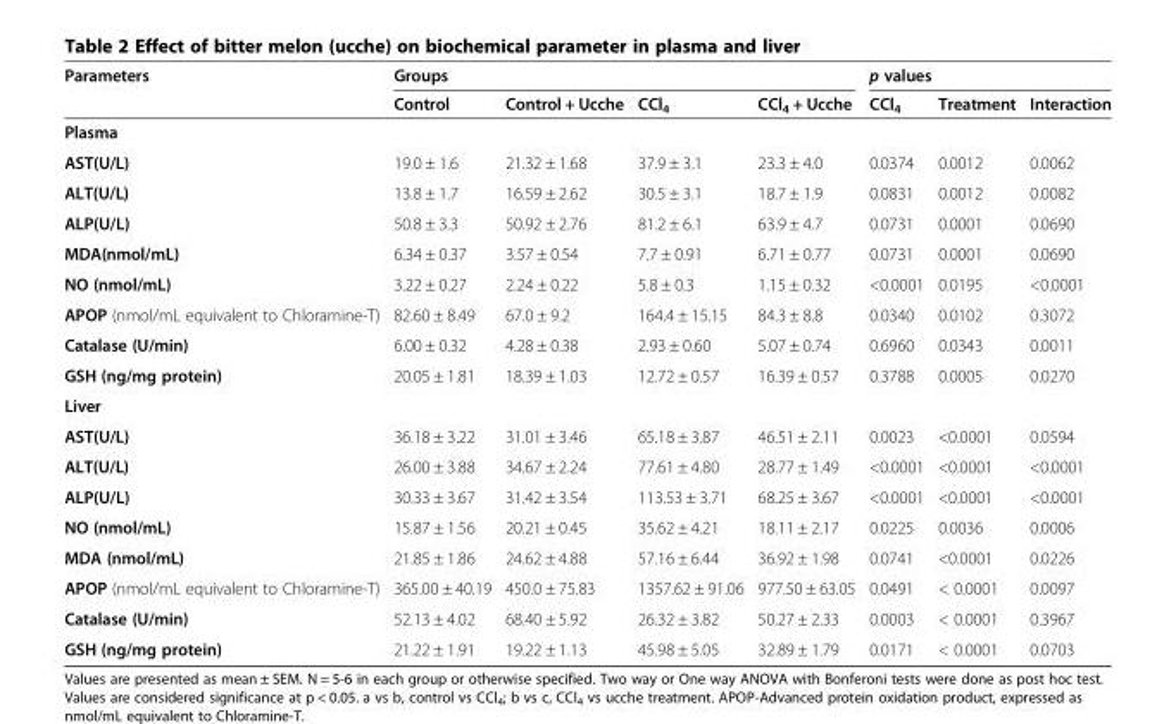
<table><thead><tr><td rowspan="2">Parameters</td><td colspan="4">Groups</td><td colspan="3">p values</td></tr><tr><td>Control</td><td>Control + Ucche</td><td>CCl<sub>4</sub></td><td>CCl<sub>4</sub> + Ucche</td><td>CCl<sub>4</sub></td><td>Treatment</td><td>Interaction</td></tr></thead><tbody><tr><td colspan="8">Plasma</td></tr><tr><td>AST(U/L)</td><td>19.0 ± 1.6</td><td>21.32 ± 1.68</td><td>37.9 ± 3.1</td><td>23.3 ± 4.0</td><td>0.0374</td><td>0.0012</td><td>0.0062</td></tr><tr><td>ALT(U/L)</td><td>13.8 ± 1.7</td><td>16.59 ± 2.62</td><td>30.5 ± 3.1</td><td>18.7 ± 1.9</td><td>0.0831</td><td>0.0012</td><td>0.0082</td></tr><tr><td>ALP(U/L)</td><td>50.8 ± 3.3</td><td>50.92 ± 2.76</td><td>81.2 ± 6.1</td><td>63.9 ± 4.7</td><td>0.0731</td><td>0.0001</td><td>0.0690</td></tr><tr><td>MDA(nmol/mL)</td><td>6.34 ± 0.37</td><td>3.57 ± 0.54</td><td>7.7 ± 0.91</td><td>6.71 ± 0.77</td><td>0.0731</td><td>0.0001</td><td>0.0690</td></tr><tr><td>NO (nmol/mL)</td><td>3.22 ± 0.27</td><td>2.24 ± 0.22</td><td>5.8 ± 0.3</td><td>1.15 ± 0.32</td><td>&lt;0.0001</td><td>0.0195</td><td>&lt;0.0001</td></tr><tr><td>APOP (nmol/mL equivalent to Chloramine-T)</td><td>82.60 ± 8.49</td><td>67.0 ± 9.2</td><td>164.4 ± 15.15</td><td>84.3 ± 8.8</td><td>0.0340</td><td>0.0102</td><td>0.3072</td></tr><tr><td>Catalase (U/min)</td><td>6.00 ± 0.32</td><td>4.28 ± 0.38</td><td>2.93 ± 0.60</td><td>5.07 ± 0.74</td><td>0.6960</td><td>0.0343</td><td>0.0011</td></tr><tr><td>GSH (ng/mg protein)</td><td>20.05 ± 1.81</td><td>18.39 ± 1.03</td><td>12.72 ± 0.57</td><td>16.39 ± 0.57</td><td>0.3788</td><td>0.0005</td><td>0.0270</td></tr><tr><td colspan="8">Liver</td></tr><tr><td>AST(U/L)</td><td>36.18 ± 3.22</td><td>31.01 ± 3.46</td><td>65.18 ± 3.87</td><td>46.51 ± 2.11</td><td>0.0023</td><td>&lt;0.0001</td><td>0.0594</td></tr><tr><td>ALT(U/L)</td><td>26.00 ± 3.88</td><td>34.67 ± 2.24</td><td>77.61 ± 4.80</td><td>28.77 ± 1.49</td><td>&lt;0.0001</td><td>&lt;0.0001</td><td>&lt;0.0001</td></tr><tr><td>ALP(U/L)</td><td>30.33 ± 3.67</td><td>31.42 ± 3.54</td><td>113.53 ± 3.71</td><td>68.25 ± 3.67</td><td>&lt;0.0001</td><td>&lt;0.0001</td><td>&lt;0.0001</td></tr><tr><td>NO (nmol/mL)</td><td>15.87 ± 1.56</td><td>20.21 ± 0.45</td><td>35.62 ± 4.21</td><td>18.11 ± 2.17</td><td>0.0225</td><td>0.0036</td><td>0.0006</td></tr><tr><td>MDA (nmol/mL)</td><td>21.85 ± 1.86</td><td>24.62 ± 4.88</td><td>57.16 ± 6.44</td><td>36.92 ± 1.98</td><td>0.0741</td><td>&lt;0.0001</td><td>0.0226</td></tr><tr><td>APOP (nmol/mL equivalent to Chloramine-T)</td><td>365.00 ± 40.19</td><td>450.0 ± 75.83</td><td>1357.62 ± 91.06</td><td>977.50 ± 63.05</td><td>0.0491</td><td>&lt; 0.0001</td><td>0.0097</td></tr><tr><td>Catalase (U/min)</td><td>52.13 ± 4.02</td><td>68.40 ± 5.92</td><td>26.32 ± 3.82</td><td>50.27 ± 2.33</td><td>0.0003</td><td>&lt; 0.0001</td><td>0.3967</td></tr><tr><td>GSH (ng/mg protein)</td><td>21.22 ± 1.91</td><td>19.22 ± 1.13</td><td>45.98 ± 5.05</td><td>32.89 ± 1.79</td><td>0.0171</td><td>&lt; 0.0001</td><td>0.0703</td></tr></tbody></table>